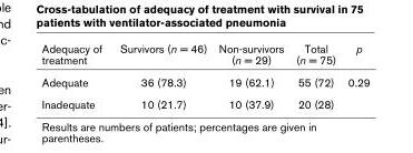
<table><thead><tr><td>Adequacy of treatment</td><td>Survivors (n = 46)</td><td>Non-survivors (n = 29)</td><td>Total (n = 75)</td><td>p</td></tr></thead><tbody><tr><td>Adequate</td><td>36 (78.3)</td><td>19 (62.1)</td><td>55 (72)</td><td>0.29</td></tr><tr><td>Inadequate</td><td>10 (21.7)</td><td>10 (37.9)</td><td>20 (28)</td><td></td></tr></tbody></table>